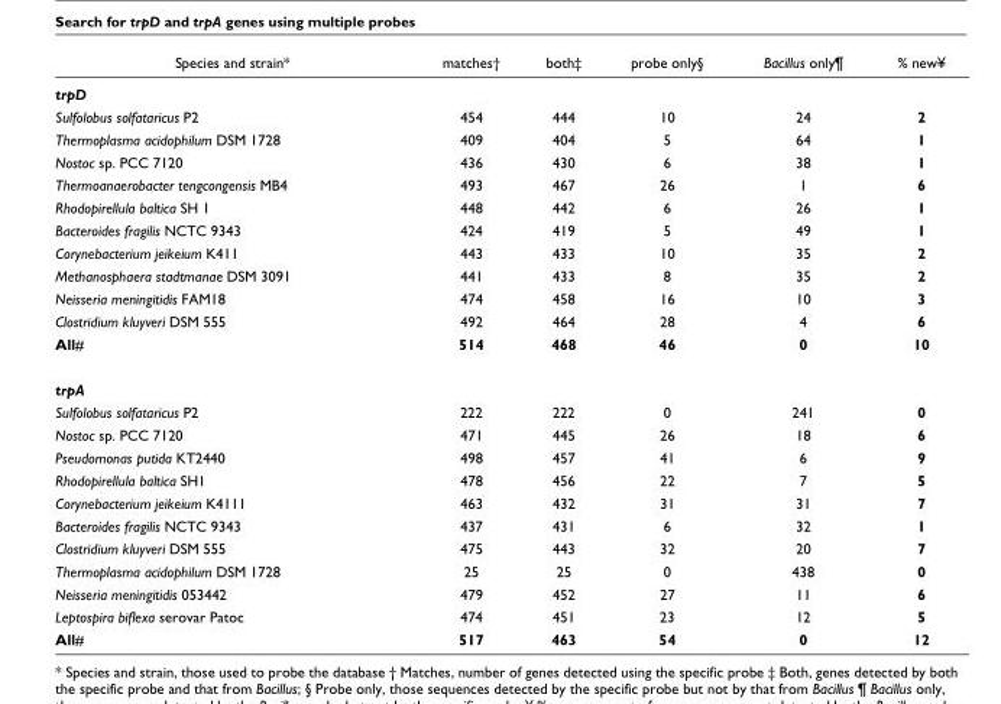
<table><thead><tr><td>Species and strain*</td><td>matches†</td><td>both‡</td><td>probe only§</td><td>Bacillus only¶</td><td>% new¥</td></tr></thead><tbody><tr><td colspan="6">trpD</td></tr><tr><td>Sulfolobus solfataricus P2</td><td>454</td><td>444</td><td>10</td><td>24</td><td>2</td></tr><tr><td>Thermoplasma acidophilum DSM 1728</td><td>409</td><td>404</td><td>5</td><td>64</td><td>1</td></tr><tr><td>Nostoc sp. PCC 7120</td><td>436</td><td>430</td><td>6</td><td>38</td><td>1</td></tr><tr><td>Thermoanaerobacter tengcongensis MB4</td><td>493</td><td>467</td><td>26</td><td>1</td><td>6</td></tr><tr><td>Rhodopirellula baltica SH 1</td><td>448</td><td>442</td><td>6</td><td>26</td><td>1</td></tr><tr><td>Bacteroides fragilis NCTC 9343</td><td>424</td><td>419</td><td>5</td><td>49</td><td>1</td></tr><tr><td>Corynebacterium jeikeium K411</td><td>443</td><td>433</td><td>10</td><td>35</td><td>2</td></tr><tr><td>Methanosphaera stadtmanae DSM 3091</td><td>441</td><td>433</td><td>8</td><td>35</td><td>2</td></tr><tr><td>Neisseria meningitidis FAM18</td><td>474</td><td>458</td><td>16</td><td>10</td><td>3</td></tr><tr><td>Clostridium kluyveri DSM 555</td><td>492</td><td>464</td><td>28</td><td>4</td><td>6</td></tr><tr><td>All#</td><td>514</td><td>468</td><td>46</td><td>0</td><td>10</td></tr><tr><td colspan="6">trpA</td></tr><tr><td>Sulfolobus solfataricus P2</td><td>222</td><td>222</td><td>0</td><td>241</td><td>0</td></tr><tr><td>Nostoc sp. PCC 7120</td><td>471</td><td>445</td><td>26</td><td>18</td><td>6</td></tr><tr><td>Pseudomonas putida KT2440</td><td>498</td><td>457</td><td>41</td><td>6</td><td>9</td></tr><tr><td>Rhodopirellula baltica SH1</td><td>478</td><td>456</td><td>22</td><td>7</td><td>5</td></tr><tr><td>Corynebacterium jeikeium K4111</td><td>463</td><td>432</td><td>31</td><td>31</td><td>7</td></tr><tr><td>Bacteroides fragilis NCTC 9343</td><td>437</td><td>431</td><td>6</td><td>32</td><td>1</td></tr><tr><td>Clostridium kluyveri DSM 555</td><td>475</td><td>443</td><td>32</td><td>20</td><td>7</td></tr><tr><td>Thermoplasma acidophilum DSM 1728</td><td>25</td><td>25</td><td>0</td><td>438</td><td>0</td></tr><tr><td>Neisseria meningitidis 053442</td><td>479</td><td>452</td><td>27</td><td>11</td><td>6</td></tr><tr><td>Leptospira biflexa serovar Patoc</td><td>474</td><td>451</td><td>23</td><td>12</td><td>5</td></tr><tr><td>All#</td><td>517</td><td>463</td><td>54</td><td>0</td><td>12</td></tr></tbody></table>